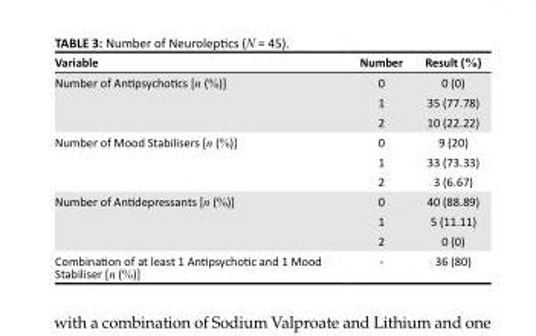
<table><thead><tr><td>Variable</td><td>Number</td><td>Result (%)</td></tr></thead><tbody><tr><td rowspan="3">Number of Antipsychotics [n (%)]</td><td>0</td><td>0 (0)</td></tr><tr><td>1</td><td>35 (77.78)</td></tr><tr><td>2</td><td>10 (22.22)</td></tr><tr><td rowspan="3">Number of Mood Stabilisers [n (%)]</td><td>0</td><td>9 (20)</td></tr><tr><td>1</td><td>33 (73.33)</td></tr><tr><td>2</td><td>3 (6.67)</td></tr><tr><td rowspan="3">Number of Antidepressants [n (%)]</td><td>0</td><td>40 (88.89)</td></tr><tr><td>1</td><td>5 (11.11)</td></tr><tr><td>2</td><td>0 (0)</td></tr><tr><td>Combination of at least 1 Antipsychotic and 1 Mood Stabiliser [n (%)]</td><td>-</td><td>36 (80)</td></tr></tbody></table>